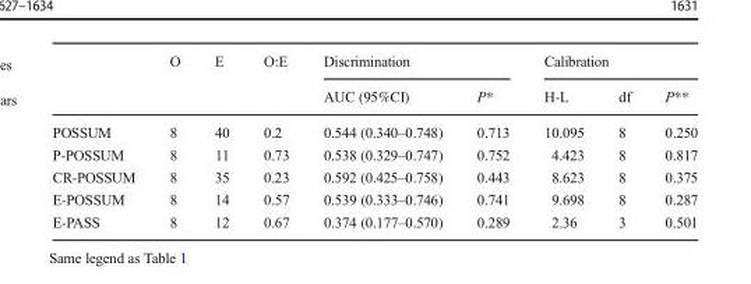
<table><thead><tr><td rowspan="2"></td><td rowspan="2">O</td><td rowspan="2">E</td><td rowspan="2">O:E</td><td colspan="2">Discrimination</td><td colspan="3">Calibration</td></tr><tr><td>AUC (95%CI)</td><td>P*</td><td>H-L</td><td>df</td><td>P**</td></tr></thead><tbody><tr><td>POSSUM</td><td>8</td><td>40</td><td>0.2</td><td>0.544 (0.340–0.748)</td><td>0.713</td><td>10.095</td><td>8</td><td>0.250</td></tr><tr><td>P-POSSUM</td><td>8</td><td>11</td><td>0.73</td><td>0.538 (0.329–0.747)</td><td>0.752</td><td>4.423</td><td>8</td><td>0.817</td></tr><tr><td>CR-POSSUM</td><td>8</td><td>35</td><td>0.23</td><td>0.592 (0.425–0.758)</td><td>0.443</td><td>8.623</td><td>8</td><td>0.375</td></tr><tr><td>E-POSSUM</td><td>8</td><td>14</td><td>0.57</td><td>0.539 (0.333–0.746)</td><td>0.741</td><td>9.698</td><td>8</td><td>0.287</td></tr><tr><td>E-PASS</td><td>8</td><td>12</td><td>0.67</td><td>0.374 (0.177–0.570)</td><td>0.289</td><td>2.36</td><td>3</td><td>0.501</td></tr></tbody></table>